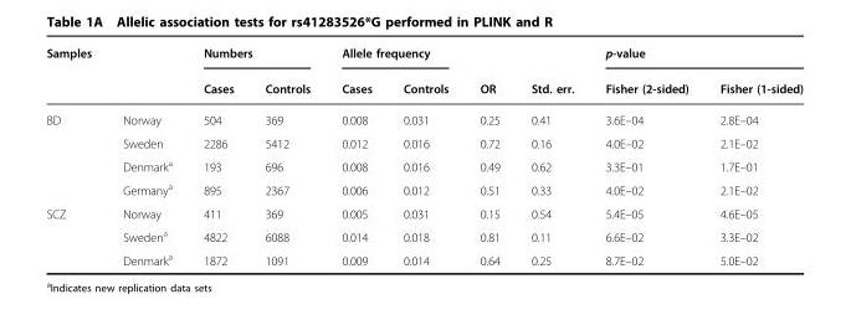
<table><thead><tr><td rowspan="2">Samples</td><td rowspan="2"></td><td colspan="2">Numbers</td><td colspan="2">Allele frequency</td><td rowspan="2">OR</td><td rowspan="2">Std. err.</td><td colspan="2">p-value</td></tr><tr><td>Cases</td><td>Controls</td><td>Cases</td><td>Controls</td><td>Fisher (2-sided)</td><td>Fisher (1-sided)</td></tr></thead><tbody><tr><td rowspan="4">BD</td><td>Norway</td><td>504</td><td>369</td><td>0.008</td><td>0.031</td><td>0.25</td><td>0.41</td><td>3.6E–04</td><td>2.8E–04</td></tr><tr><td>Sweden</td><td>2286</td><td>5412</td><td>0.012</td><td>0.016</td><td>0.72</td><td>0.16</td><td>4.0E–02</td><td>2.1E–02</td></tr><tr><td>Denmark<sup>a</sup></td><td>193</td><td>696</td><td>0.008</td><td>0.016</td><td>0.49</td><td>0.62</td><td>3.3E–01</td><td>1.7E–01</td></tr><tr><td>Germany<sup>a</sup></td><td>895</td><td>2367</td><td>0.006</td><td>0.012</td><td>0.51</td><td>0.33</td><td>4.0E–02</td><td>2.1E–02</td></tr><tr><td rowspan="3">SCZ</td><td>Norway</td><td>411</td><td>369</td><td>0.005</td><td>0.031</td><td>0.15</td><td>0.54</td><td>5.4E–05</td><td>4.6E–05</td></tr><tr><td>Sweden<sup>a</sup></td><td>4822</td><td>6088</td><td>0.014</td><td>0.018</td><td>0.81</td><td>0.11</td><td>6.6E–02</td><td>3.3E–02</td></tr><tr><td>Denmark<sup>a</sup></td><td>1872</td><td>1091</td><td>0.009</td><td>0.014</td><td>0.64</td><td>0.25</td><td>8.7E–02</td><td>5.0E–02</td></tr></tbody></table>